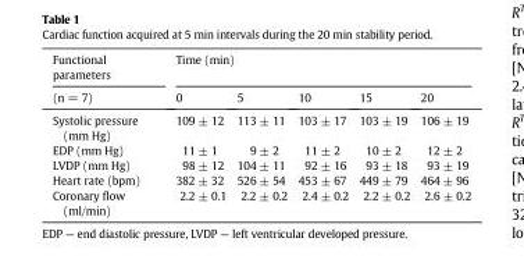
<table><thead><tr><td rowspan="2">Functional parameters (n = 7)</td><td colspan="5">Time (min)</td></tr><tr><td>0</td><td>5</td><td>10</td><td>15</td><td>20</td></tr></thead><tbody><tr><td>Systolic pressure (mm Hg)</td><td>109 ± 12</td><td>113 ± 11</td><td>103 ± 17</td><td>103 ± 19</td><td>106 ± 19</td></tr><tr><td>EDP (mm Hg)</td><td>11 ± 1</td><td>9 ± 2</td><td>11 ± 2</td><td>10 ± 2</td><td>12 ± 2</td></tr><tr><td>LVDP (mm Hg)</td><td>98 ± 12</td><td>104 ± 11</td><td>92 ± 16</td><td>93 ± 18</td><td>93 ± 19</td></tr><tr><td>Heart rate (bpm)</td><td>382 ± 32</td><td>526 ± 54</td><td>453 ± 67</td><td>449 ± 79</td><td>464 ± 96</td></tr><tr><td>Coronary flow (ml/min)</td><td>2.2 ± 0.1</td><td>2.2 ± 0.2</td><td>2.4 ± 0.2</td><td>2.2 ± 0.2</td><td>2.6 ± 0.2</td></tr></tbody></table>